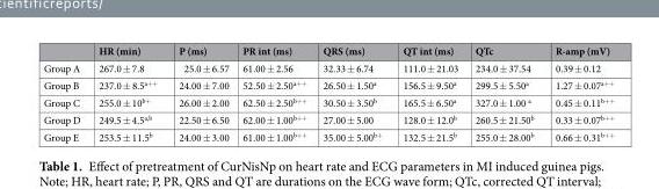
<table><thead><tr><td></td><td>HR (min)</td><td>P (ms)</td><td>PR int (ms)</td><td>QRS (ms)</td><td>QT int (ms)</td><td>QTc</td><td>R-amp (mV)</td></tr></thead><tbody><tr><td>Group A</td><td>267.0 ± 7.8</td><td>25.0 ± 6.57</td><td>61.00 ± 2.56</td><td>32.33 ± 6.74</td><td>111.0 ± 21.03</td><td>234.0 ± 37.54</td><td>0.39 ± 0.12</td></tr><tr><td>Group B</td><td>237.0 ± 8.5<sup>a++</sup></td><td>24.00 ± 7.00</td><td>52.50 ± 2.50<sup>a++</sup></td><td>26.50 ± 1.50<sup>a</sup></td><td>156.5 ± 9.50<sup>a</sup></td><td>299.5 ± 5.50<sup>a</sup></td><td>1.27 ± 0.07<sup>a++</sup></td></tr><tr><td>Group C</td><td>255.0 ± 10<sup>b+</sup></td><td>26.00 ± 2.00</td><td>62.50 ± 2.50<sup>b++</sup></td><td>30.50 ± 3.50<sup>b</sup></td><td>165.5 ± 6.50<sup>a</sup></td><td>327.0 ± 1.00 <sup>a</sup></td><td>0.45 ± 0.11<sup>b++</sup></td></tr><tr><td>Group D</td><td>249.5 ± 4.5<sup>a,b</sup></td><td>22.50 ± 6.50</td><td>62.00 ± 1.00<sup>b++</sup></td><td>27.00 ± 5.00</td><td>128.0 ± 12.0<sup>b</sup></td><td>260.5 ± 21.50<sup>b</sup></td><td>0.33 ± 0.07<sup>b++</sup></td></tr><tr><td>Group E</td><td>253.5 ± 11.5<sup>b</sup></td><td>24.00 ± 3.00</td><td>61.00 ± 1.00<sup>b++</sup></td><td>35.00 ± 5.00<sup>b+</sup></td><td>132.5 ± 21.5<sup>b</sup></td><td>255.0 ± 28.00<sup>b</sup></td><td>0.66 ± 0.31<sup>b++</sup></td></tr></tbody></table>